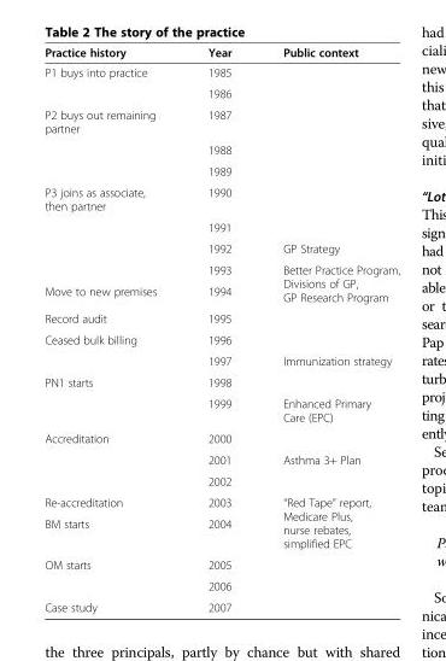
<table><thead><tr><td>Practice history</td><td>Year</td><td>Public context</td></tr></thead><tbody><tr><td rowspan="2">P1 buys into practice</td><td>1985</td><td></td></tr><tr><td>1986</td><td></td></tr><tr><td rowspan="3">P2 buys out remaining partner</td><td>1987</td><td></td></tr><tr><td>1988</td><td></td></tr><tr><td>1989</td><td></td></tr><tr><td rowspan="4">P3 joins as associate, then partner</td><td>1990</td><td></td></tr><tr><td>1991</td><td></td></tr><tr><td>1992</td><td>GP Strategy</td></tr><tr><td>1993</td><td rowspan="2">Better Practice Program, Divisions of GP, GP Research Program</td></tr><tr><td>Move to new premises</td><td>1994</td></tr><tr><td>Record audit</td><td>1995</td><td></td></tr><tr><td rowspan="2">Ceased bulk billing</td><td>1996</td><td></td></tr><tr><td>1997</td><td>Immunization strategy</td></tr><tr><td rowspan="2">PN1 starts</td><td>1998</td><td></td></tr><tr><td>1999</td><td>Enhanced Primary Care (EPC)</td></tr><tr><td rowspan="3">Accreditation</td><td>2000</td><td></td></tr><tr><td>2001</td><td>Asthma 3+ Plan</td></tr><tr><td>2002</td><td></td></tr><tr><td>Re-accreditation</td><td>2003</td><td rowspan="2">“Red Tape” report, Medicare Plus, nurse rebates, simplified EPC</td></tr><tr><td>BM starts</td><td>2004</td></tr><tr><td rowspan="2">OM starts</td><td>2005</td><td></td></tr><tr><td>2006</td><td></td></tr><tr><td>Case study</td><td>2007</td><td></td></tr></tbody></table>